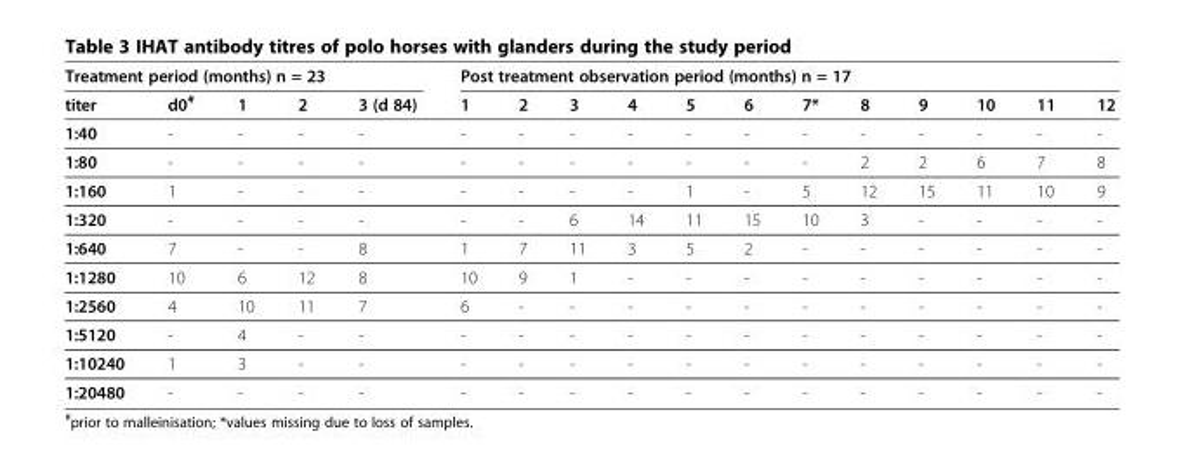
<table><thead><tr><td colspan="5">Treatment period (months) n = 23</td><td colspan="12">Post treatment observation period (months) n = 17</td></tr><tr><td>titer</td><td>d0<sup>#</sup></td><td>1</td><td>2</td><td>3 (d 84)</td><td>1</td><td>2</td><td>3</td><td>4</td><td>5</td><td>6</td><td>7*</td><td>8</td><td>9</td><td>10</td><td>11</td><td>12</td></tr></thead><tbody><tr><td>1:40</td><td>-</td><td>-</td><td>-</td><td>-</td><td>-</td><td>-</td><td>-</td><td>-</td><td>-</td><td>-</td><td>-</td><td>-</td><td>-</td><td>-</td><td>-</td><td>-</td></tr><tr><td>1:80</td><td>-</td><td>-</td><td>-</td><td>-</td><td>-</td><td>-</td><td>-</td><td>-</td><td>-</td><td>-</td><td>-</td><td>2</td><td>2</td><td>6</td><td>7</td><td>8</td></tr><tr><td>1:160</td><td>1</td><td>-</td><td>-</td><td>-</td><td>-</td><td>-</td><td>-</td><td>-</td><td>1</td><td>-</td><td>5</td><td>12</td><td>15</td><td>11</td><td>10</td><td>9</td></tr><tr><td>1:320</td><td>-</td><td>-</td><td>-</td><td>-</td><td>-</td><td>-</td><td>6</td><td>14</td><td>11</td><td>15</td><td>10</td><td>3</td><td>-</td><td>-</td><td>-</td><td>-</td></tr><tr><td>1:640</td><td>7</td><td>-</td><td>-</td><td>8</td><td>1</td><td>7</td><td>11</td><td>3</td><td>5</td><td>2</td><td>-</td><td>-</td><td>-</td><td>-</td><td>-</td><td>-</td></tr><tr><td>1:1280</td><td>10</td><td>6</td><td>12</td><td>8</td><td>10</td><td>9</td><td>1</td><td>-</td><td>-</td><td>-</td><td>-</td><td>-</td><td>-</td><td>-</td><td>-</td><td>-</td></tr><tr><td>1:2560</td><td>4</td><td>10</td><td>11</td><td>7</td><td>6</td><td>-</td><td>-</td><td>-</td><td>-</td><td>-</td><td>-</td><td>-</td><td>-</td><td>-</td><td>-</td><td>-</td></tr><tr><td>1:5120</td><td>-</td><td>4</td><td>-</td><td>-</td><td>-</td><td>-</td><td>-</td><td>-</td><td>-</td><td>-</td><td>-</td><td>-</td><td>-</td><td>-</td><td>-</td><td>-</td></tr><tr><td>1:10240</td><td>1</td><td>3</td><td>-</td><td>-</td><td>-</td><td>-</td><td>-</td><td>-</td><td>-</td><td>-</td><td>-</td><td>-</td><td>-</td><td>-</td><td>-</td><td>-</td></tr><tr><td>1:20480</td><td>-</td><td>-</td><td>-</td><td>-</td><td>-</td><td>-</td><td>-</td><td>-</td><td>-</td><td>-</td><td>-</td><td>-</td><td>-</td><td>-</td><td>-</td><td>-</td></tr></tbody></table>